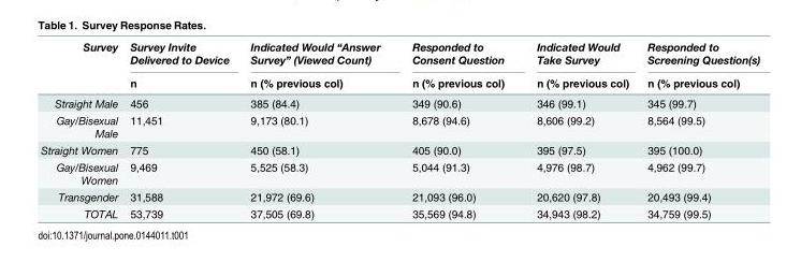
<table><thead><tr><td rowspan="2">Survey</td><td rowspan="2">Survey Invite Delivered to Device n</td><td rowspan="2">Indicated Would “Answer Survey” (Viewed Count) n (% previous col)</td><td rowspan="2">Responded to Consent Question n (% previous col)</td><td rowspan="2">Indicated Would Take Survey n (% previous col)</td><td rowspan="2">Responded to Screening Question(s) n (% previous col)</td></tr><tr></tr></thead><tbody><tr><td>Straight Male</td><td>456</td><td>385 (84.4)</td><td>349 (90.6)</td><td>346 (99.1)</td><td>345 (99.7)</td></tr><tr><td>Gay/Bisexual Male</td><td>11,451</td><td>9,173 (80.1)</td><td>8,678 (94.6)</td><td>8,606 (99.2)</td><td>8,564 (99.5)</td></tr><tr><td>Straight Women</td><td>775</td><td>450 (58.1)</td><td>405 (90.0)</td><td>395 (97.5)</td><td>395 (100.0)</td></tr><tr><td>Gay/Bisexual Women</td><td>9,469</td><td>5,525 (58.3)</td><td>5,044 (91.3)</td><td>4,976 (98.7)</td><td>4,962 (99.7)</td></tr><tr><td>Transgender</td><td>31,588</td><td>21,972 (69.6)</td><td>21,093 (96.0)</td><td>20,620 (97.8)</td><td>20,493 (99.4)</td></tr><tr><td>TOTAL</td><td>53,739</td><td>37,505 (69.8)</td><td>35,569 (94.8)</td><td>34,943 (98.2)</td><td>34,759 (99.5)</td></tr></tbody></table>